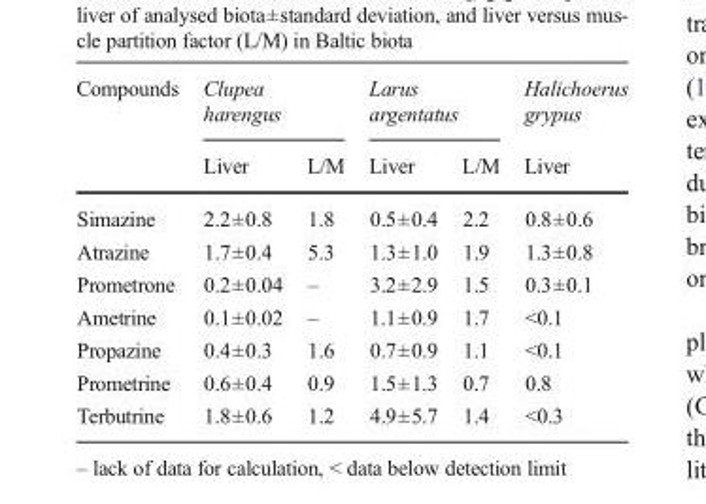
<table><thead><tr><td rowspan="2">Compounds</td><td colspan="2">Clupea harengus</td><td colspan="2">Larus argentatus</td><td rowspan="2">Halichoerus grypus Liver</td></tr><tr><td>Liver</td><td>L/M</td><td>Liver</td><td>L/M</td></tr></thead><tbody><tr><td>Simazine</td><td>2.2±0.8</td><td>1.8</td><td>0.5±0.4</td><td>2.2</td><td>0.8±0.6</td></tr><tr><td>Atrazine</td><td>1.7±0.4</td><td>5.3</td><td>1.3±1.0</td><td>1.9</td><td>1.3±0.8</td></tr><tr><td>Prometrone</td><td>0.2±0.04</td><td>–</td><td>3.2±2.9</td><td>1.5</td><td>0.3±0.1</td></tr><tr><td>Ametrine</td><td>0.1±0.02</td><td>–</td><td>1.1±0.9</td><td>1.7</td><td>&lt;0.1</td></tr><tr><td>Propazine</td><td>0.4±0.3</td><td>1.6</td><td>0.7±0.9</td><td>1.1</td><td>&lt;0.1</td></tr><tr><td>Prometrine</td><td>0.6±0.4</td><td>0.9</td><td>1.5±1.3</td><td>0.7</td><td>0.8</td></tr><tr><td>Terbutrine</td><td>1.8±0.6</td><td>1.2</td><td>4.9±5.7</td><td>1.4</td><td>&lt;0.3</td></tr></tbody></table>